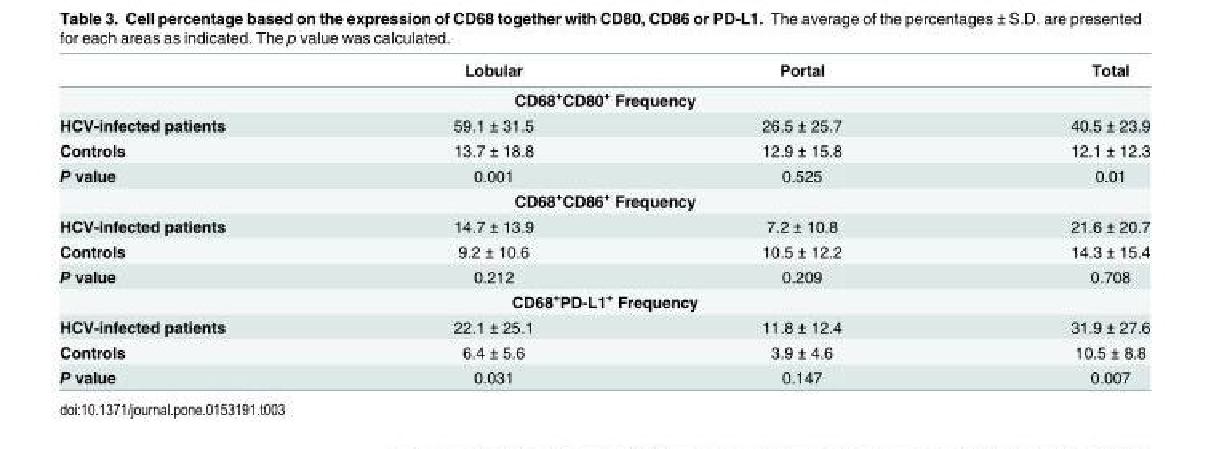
<table><thead><tr><td></td><td>Lobular</td><td>Portal</td><td>Total</td></tr></thead><tbody><tr><td colspan="4">CD68<sup>+</sup>CD80<sup>+</sup> Frequency</td></tr><tr><td>HCV-infected patients</td><td>59.1 ± 31.5</td><td>26.5 ± 25.7</td><td>40.5 ± 23.9</td></tr><tr><td>Controls</td><td>13.7 ± 18.8</td><td>12.9 ± 15.8</td><td>12.1 ± 12.3</td></tr><tr><td>P value</td><td>0.001</td><td>0.525</td><td>0.01</td></tr><tr><td colspan="4">CD68<sup>+</sup>CD86<sup>+</sup> Frequency</td></tr><tr><td>HCV-infected patients</td><td>14.7 ± 13.9</td><td>7.2 ± 10.8</td><td>21.6 ± 20.7</td></tr><tr><td>Controls</td><td>9.2 ± 10.6</td><td>10.5 ± 12.2</td><td>14.3 ± 15.4</td></tr><tr><td>P value</td><td>0.212</td><td>0.209</td><td>0.708</td></tr><tr><td colspan="4">CD68<sup>+</sup>PD-L1<sup>+</sup> Frequency</td></tr><tr><td>HCV-infected patients</td><td>22.1 ± 25.1</td><td>11.8 ± 12.4</td><td>31.9 ± 27.6</td></tr><tr><td>Controls</td><td>6.4 ± 5.6</td><td>3.9 ± 4.6</td><td>10.5 ± 8.8</td></tr><tr><td>P value</td><td>0.031</td><td>0.147</td><td>0.007</td></tr></tbody></table>